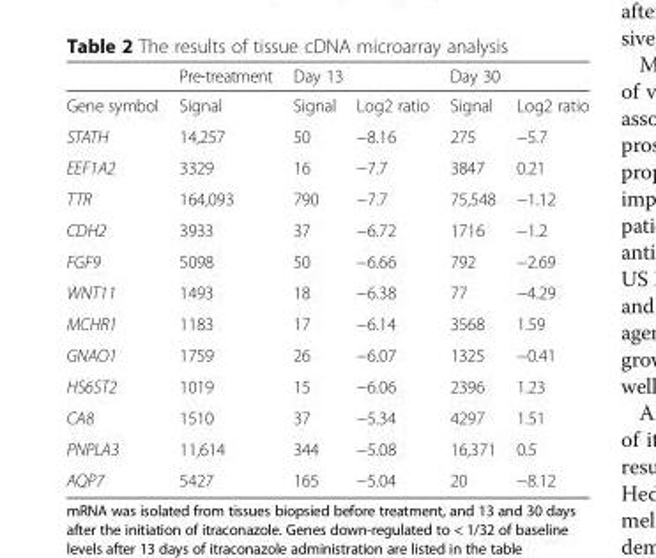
<table><thead><tr><td rowspan="2">Gene symbol</td><td rowspan="2">Pre-treatment Signal</td><td colspan="2">Day 13</td><td colspan="2">Day 30</td></tr><tr><td>Signal</td><td>Log2 ratio</td><td>Signal</td><td>Log2 ratio</td></tr></thead><tbody><tr><td>STATH</td><td>14,257</td><td>50</td><td>−8.16</td><td>275</td><td>−5.7</td></tr><tr><td>EEF1A2</td><td>3329</td><td>16</td><td>−7.7</td><td>3847</td><td>0.21</td></tr><tr><td>TTR</td><td>164,093</td><td>790</td><td>−7.7</td><td>75,548</td><td>−1.12</td></tr><tr><td>CDH2</td><td>3933</td><td>37</td><td>−6.72</td><td>1716</td><td>−1.2</td></tr><tr><td>FGF9</td><td>5098</td><td>50</td><td>−6.66</td><td>792</td><td>−2.69</td></tr><tr><td>WNT11</td><td>1493</td><td>18</td><td>−6.38</td><td>77</td><td>−4.29</td></tr><tr><td>MCHR1</td><td>1183</td><td>17</td><td>−6.14</td><td>3568</td><td>1.59</td></tr><tr><td>GNAO1</td><td>1759</td><td>26</td><td>−6.07</td><td>1325</td><td>−0.41</td></tr><tr><td>HS6ST2</td><td>1019</td><td>15</td><td>−6.06</td><td>2396</td><td>1.23</td></tr><tr><td>CA8</td><td>1510</td><td>37</td><td>−5.34</td><td>4297</td><td>1.51</td></tr><tr><td>PNPLA3</td><td>11,614</td><td>344</td><td>−5.08</td><td>16,371</td><td>0.5</td></tr><tr><td>AQP7</td><td>5427</td><td>165</td><td>−5.04</td><td>20</td><td>−8.12</td></tr></tbody></table>